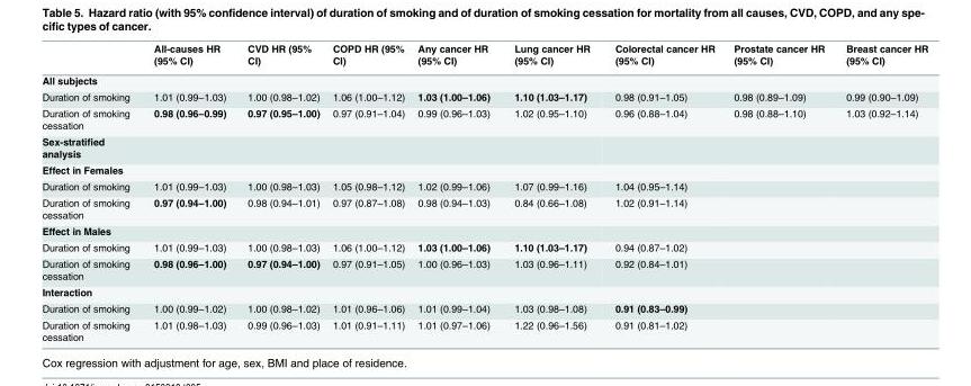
<table><thead><tr><td></td><td>All-causes HR (95% CI)</td><td>CVD HR (95% CI)</td><td>COPD HR (95% CI)</td><td>Any cancer HR (95% CI)</td><td>Lung cancer HR (95% CI)</td><td>Colorectal cancer HR (95% CI)</td><td>Prostate cancer HR (95% CI)</td><td>Breast cancer HR (95% CI)</td></tr></thead><tbody><tr><td colspan="9">All subjects</td></tr><tr><td>Duration of smoking</td><td>1.01 (0.99–1.03)</td><td>1.00 (0.98–1.02)</td><td>1.06 (1.00–1.12)</td><td>1.03 (1.00–1.06)</td><td>1.10 (1.03–1.17)</td><td>0.98 (0.91–1.05)</td><td>0.98 (0.89–1.09)</td><td>0.99 (0.90–1.09)</td></tr><tr><td>Duration of smoking cessation</td><td>0.98 (0.96–0.99)</td><td>0.97 (0.95–1.00)</td><td>0.97 (0.91–1.04)</td><td>0.99 (0.96–1.03)</td><td>1.02 (0.95–1.10)</td><td>0.96 (0.88–1.04)</td><td>0.98 (0.88–1.10)</td><td>1.03 (0.92–1.14)</td></tr><tr><td colspan="9">Sex-stratified analysis</td></tr><tr><td colspan="9">Effect in Females</td></tr><tr><td>Duration of smoking</td><td>1.01 (0.99–1.03)</td><td>1.00 (0.98–1.03)</td><td>1.05 (0.98–1.12)</td><td>1.02 (0.99–1.06)</td><td>1.07 (0.99–1.16)</td><td>1.04 (0.95–1.14)</td><td></td><td></td></tr><tr><td>Duration of smoking cessation</td><td>0.97 (0.94–1.00)</td><td>0.98 (0.94–1.01)</td><td>0.97 (0.87–1.08)</td><td>0.98 (0.94–1.03)</td><td>0.84 (0.66–1.08)</td><td>1.02 (0.91–1.14)</td><td></td><td></td></tr><tr><td colspan="9">Effect in Males</td></tr><tr><td>Duration of smoking</td><td>1.01 (0.99–1.03)</td><td>1.00 (0.98–1.03)</td><td>1.06 (1.00–1.12)</td><td>1.03 (1.00–1.06)</td><td>1.10 (1.03–1.17)</td><td>0.94 (0.87–1.02)</td><td></td><td></td></tr><tr><td>Duration of smoking cessation</td><td>0.98 (0.96–1.00)</td><td>0.97 (0.94–1.00)</td><td>0.97 (0.91–1.05)</td><td>1.00 (0.96–1.03)</td><td>1.03 (0.96–1.11)</td><td>0.92 (0.84–1.01)</td><td></td><td></td></tr><tr><td colspan="9">Interaction</td></tr><tr><td>Duration of smoking</td><td>1.00 (0.99–1.02)</td><td>1.00 (0.98–1.02)</td><td>1.01 (0.96–1.06)</td><td>1.01 (0.99–1.04)</td><td>1.03 (0.98–1.08)</td><td>0.91 (0.83–0.99)</td><td></td><td></td></tr><tr><td>Duration of smoking cessation</td><td>1.01 (0.98–1.03)</td><td>0.99 (0.96–1.03)</td><td>1.01 (0.91–1.11)</td><td>1.01 (0.97–1.06)</td><td>1.22 (0.96–1.56)</td><td>0.91 (0.81–1.02)</td><td></td><td></td></tr></tbody></table>